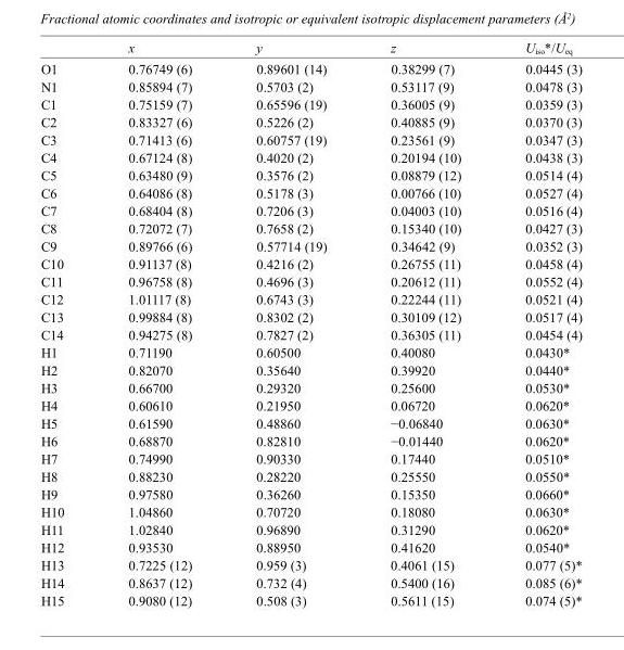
<table><thead><tr><td></td><td>x</td><td>y</td><td>z</td><td>U<sub>iso</sub>*/U<sub>eq</sub></td></tr></thead><tbody><tr><td>O1</td><td>0.76749 (6)</td><td>0.89601 (14)</td><td>0.38299 (7)</td><td>0.0445 (3)</td></tr><tr><td>N1</td><td>0.85894 (7)</td><td>0.5703 (2)</td><td>0.53117 (9)</td><td>0.0478 (3)</td></tr><tr><td>C1</td><td>0.75159 (7)</td><td>0.65596 (19)</td><td>0.36005 (9)</td><td>0.0359 (3)</td></tr><tr><td>C2</td><td>0.83327 (6)</td><td>0.5226 (2)</td><td>0.40885 (9)</td><td>0.0370 (3)</td></tr><tr><td>C3</td><td>0.71413 (6)</td><td>0.60757 (19)</td><td>0.23561 (9)</td><td>0.0347 (3)</td></tr><tr><td>C4</td><td>0.67124 (8)</td><td>0.4020 (2)</td><td>0.20194 (10)</td><td>0.0438 (3)</td></tr><tr><td>C5</td><td>0.63480 (9)</td><td>0.3576 (2)</td><td>0.08879 (12)</td><td>0.0514 (4)</td></tr><tr><td>C6</td><td>0.64086 (8)</td><td>0.5178 (3)</td><td>0.00766 (10)</td><td>0.0527 (4)</td></tr><tr><td>C7</td><td>0.68404 (8)</td><td>0.7206 (3)</td><td>0.04003 (10)</td><td>0.0516 (4)</td></tr><tr><td>C8</td><td>0.72072 (7)</td><td>0.7658 (2)</td><td>0.15340 (10)</td><td>0.0427 (3)</td></tr><tr><td>C9</td><td>0.89766 (6)</td><td>0.57714 (19)</td><td>0.34642 (9)</td><td>0.0352 (3)</td></tr><tr><td>C10</td><td>0.91137 (8)</td><td>0.4216 (2)</td><td>0.26755 (11)</td><td>0.0458 (4)</td></tr><tr><td>C11</td><td>0.96758 (8)</td><td>0.4696 (3)</td><td>0.20612 (11)</td><td>0.0552 (4)</td></tr><tr><td>C12</td><td>1.01117 (8)</td><td>0.6743 (3)</td><td>0.22244 (11)</td><td>0.0521 (4)</td></tr><tr><td>C13</td><td>0.99884 (8)</td><td>0.8302 (2)</td><td>0.30109 (12)</td><td>0.0517 (4)</td></tr><tr><td>C14</td><td>0.94275 (8)</td><td>0.7827 (2)</td><td>0.36305 (11)</td><td>0.0454 (4)</td></tr><tr><td>H1</td><td>0.71190</td><td>0.60500</td><td>0.40080</td><td>0.0430*</td></tr><tr><td>H2</td><td>0.82070</td><td>0.35640</td><td>0.39920</td><td>0.0440*</td></tr><tr><td>H3</td><td>0.66700</td><td>0.29320</td><td>0.25600</td><td>0.0530*</td></tr><tr><td>H4</td><td>0.60610</td><td>0.21950</td><td>0.06720</td><td>0.0620*</td></tr><tr><td>H5</td><td>0.61590</td><td>0.48860</td><td>−0.06840</td><td>0.0630*</td></tr><tr><td>H6</td><td>0.68870</td><td>0.82810</td><td>−0.01440</td><td>0.0620*</td></tr><tr><td>H7</td><td>0.74990</td><td>0.90330</td><td>0.17440</td><td>0.0510*</td></tr><tr><td>H8</td><td>0.88230</td><td>0.28220</td><td>0.25550</td><td>0.0550*</td></tr><tr><td>H9</td><td>0.97580</td><td>0.36260</td><td>0.15350</td><td>0.0660*</td></tr><tr><td>H10</td><td>1.04860</td><td>0.70720</td><td>0.18080</td><td>0.0630*</td></tr><tr><td>H11</td><td>1.02840</td><td>0.96890</td><td>0.31290</td><td>0.0620*</td></tr><tr><td>H12</td><td>0.93530</td><td>0.88950</td><td>0.41620</td><td>0.0540*</td></tr><tr><td>H13</td><td>0.7225 (12)</td><td>0.959 (3)</td><td>0.4061 (15)</td><td>0.077 (5)*</td></tr><tr><td>H14</td><td>0.8637 (12)</td><td>0.732 (4)</td><td>0.5400 (16)</td><td>0.085 (6)*</td></tr><tr><td>H15</td><td>0.9080 (12)</td><td>0.508 (3)</td><td>0.5611 (15)</td><td>0.074 (5)*</td></tr></tbody></table>